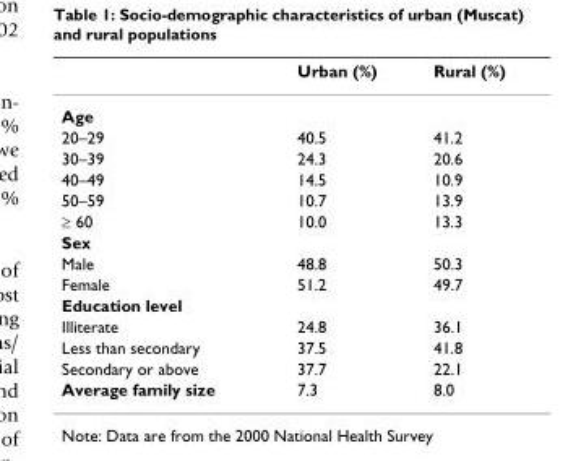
<table><thead><tr><td></td><td>Urban (%)</td><td>Rural (%)</td></tr></thead><tbody><tr><td colspan="3">Age</td></tr><tr><td>20–29</td><td>40.5</td><td>41.2</td></tr><tr><td>30–39</td><td>24.3</td><td>20.6</td></tr><tr><td>40–49</td><td>14.5</td><td>10.9</td></tr><tr><td>50–59</td><td>10.7</td><td>13.9</td></tr><tr><td>≥ 60</td><td>10.0</td><td>13.3</td></tr><tr><td colspan="3">Sex</td></tr><tr><td>Male</td><td>48.8</td><td>50.3</td></tr><tr><td>Female</td><td>51.2</td><td>49.7</td></tr><tr><td colspan="3">Education level</td></tr><tr><td>Illiterate</td><td>24.8</td><td>36.1</td></tr><tr><td>Less than secondary</td><td>37.5</td><td>41.8</td></tr><tr><td>Secondary or above</td><td>37.7</td><td>22.1</td></tr><tr><td>Average family size</td><td>7.3</td><td>8.0</td></tr></tbody></table>